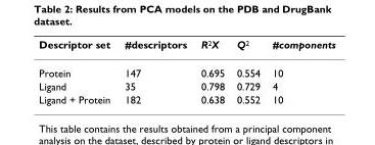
<table><thead><tr><td>Descriptor set</td><td>#descriptors</td><td>R<sup>2</sup>X</td><td>Q<sup>2</sup></td><td>#components</td></tr></thead><tbody><tr><td>Protein</td><td>147</td><td>0.695</td><td>0.554</td><td>10</td></tr><tr><td>Ligand</td><td>35</td><td>0.798</td><td>0.729</td><td>4</td></tr><tr><td>Ligand + Protein</td><td>182</td><td>0.638</td><td>0.552</td><td>10</td></tr></tbody></table>